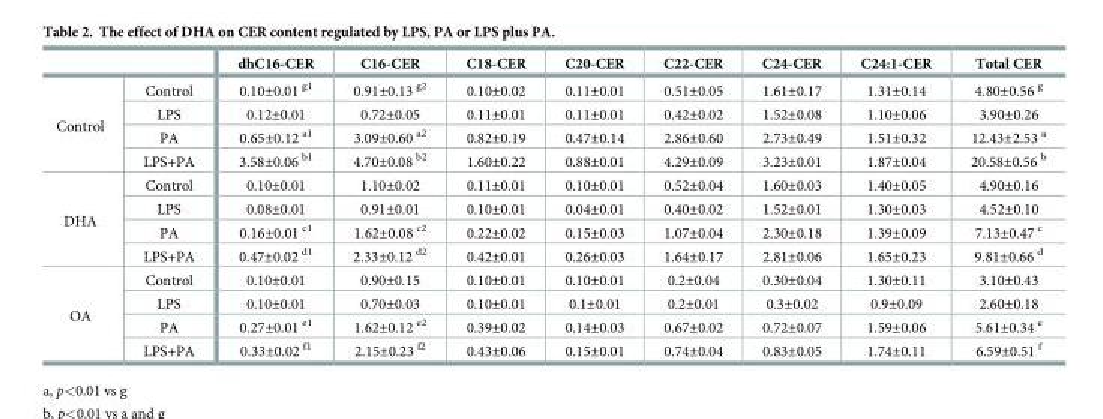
<table><thead><tr><td></td><td></td><td>dhC16-CER</td><td>C16-CER</td><td>C18-CER</td><td>C20-CER</td><td>C22-CER</td><td>C24-CER</td><td>C24:1-CER</td><td>Total CER</td></tr></thead><tbody><tr><td rowspan="4">Control</td><td>Control</td><td>0.10±0.01 <sup>g1</sup></td><td>0.91±0.13 <sup>g2</sup></td><td>0.10±0.02</td><td>0.11±0.01</td><td>0.51±0.05</td><td>1.61±0.17</td><td>1.31±0.14</td><td>4.80±0.56 <sup>g</sup></td></tr><tr><td>LPS</td><td>0.12±0.01</td><td>0.72±0.05</td><td>0.11±0.01</td><td>0.11±0.01</td><td>0.42±0.02</td><td>1.52±0.08</td><td>1.10±0.06</td><td>3.90±0.26</td></tr><tr><td>PA</td><td>0.65±0.12 <sup>a1</sup></td><td>3.09±0.60 <sup>a2</sup></td><td>0.82±0.19</td><td>0.47±0.14</td><td>2.86±0.60</td><td>2.73±0.49</td><td>1.51±0.32</td><td>12.43±2.53 <sup>a</sup></td></tr><tr><td>LPS+PA</td><td>3.58±0.06 <sup>b1</sup></td><td>4.70±0.08 <sup>b2</sup></td><td>1.60±0.22</td><td>0.88±0.01</td><td>4.29±0.09</td><td>3.23±0.01</td><td>1.87±0.04</td><td>20.58±0.56 <sup>b</sup></td></tr><tr><td rowspan="4">DHA</td><td>Control</td><td>0.10±0.01</td><td>1.10±0.02</td><td>0.11±0.01</td><td>0.10±0.01</td><td>0.52±0.04</td><td>1.60±0.03</td><td>1.40±0.05</td><td>4.90±0.16</td></tr><tr><td>LPS</td><td>0.08±0.01</td><td>0.91±0.01</td><td>0.10±0.01</td><td>0.04±0.01</td><td>0.40±0.02</td><td>1.52±0.01</td><td>1.30±0.03</td><td>4.52±0.10</td></tr><tr><td>PA</td><td>0.16±0.01 <sup>c1</sup></td><td>1.62±0.08 <sup>c2</sup></td><td>0.22±0.02</td><td>0.15±0.03</td><td>1.07±0.04</td><td>2.30±0.18</td><td>1.39±0.09</td><td>7.13±0.47 <sup>c</sup></td></tr><tr><td>LPS+PA</td><td>0.47±0.02 <sup>d1</sup></td><td>2.33±0.12 <sup>d2</sup></td><td>0.42±0.01</td><td>0.26±0.03</td><td>1.64±0.17</td><td>2.81±0.06</td><td>1.65±0.23</td><td>9.81±0.66 <sup>d</sup></td></tr><tr><td rowspan="4">OA</td><td>Control</td><td>0.10±0.01</td><td>0.90±0.15</td><td>0.10±0.01</td><td>0.10±0.01</td><td>0.2±0.04</td><td>0.30±0.04</td><td>1.30±0.11</td><td>3.10±0.43</td></tr><tr><td>LPS</td><td>0.10±0.01</td><td>0.70±0.03</td><td>0.10±0.01</td><td>0.1±0.01</td><td>0.2±0.01</td><td>0.3±0.02</td><td>0.9±0.09</td><td>2.60±0.18</td></tr><tr><td>PA</td><td>0.27±0.01 <sup>e1</sup></td><td>1.62±0.12 <sup>e2</sup></td><td>0.39±0.02</td><td>0.14±0.03</td><td>0.67±0.02</td><td>0.72±0.07</td><td>1.59±0.06</td><td>5.61±0.34 <sup>e</sup></td></tr><tr><td>LPS+PA</td><td>0.33±0.02 <sup>f1</sup></td><td>2.15±0.23 <sup>f2</sup></td><td>0.43±0.06</td><td>0.15±0.01</td><td>0.74±0.04</td><td>0.83±0.05</td><td>1.74±0.11</td><td>6.59±0.51 <sup>f</sup></td></tr></tbody></table>